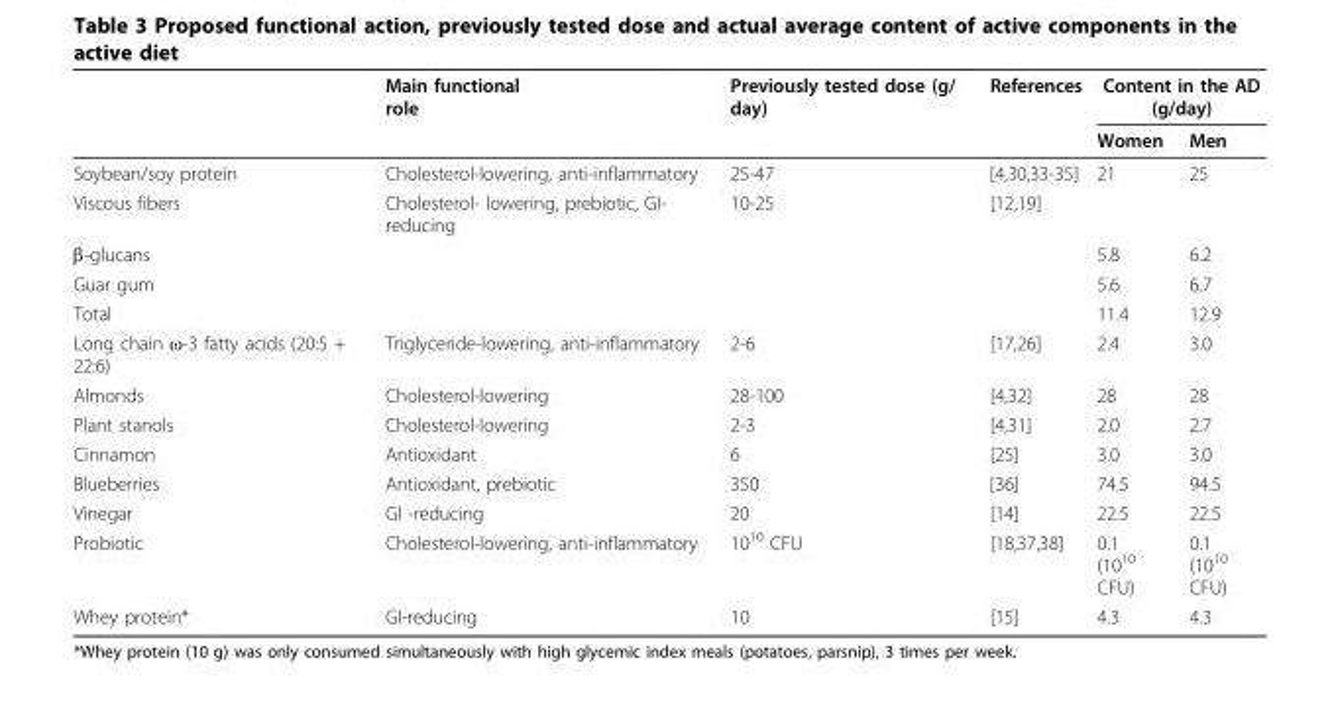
<table><thead><tr><td rowspan="2"></td><td rowspan="2">Main functional role</td><td rowspan="2">Previously tested dose (g/ day)</td><td rowspan="2">References</td><td colspan="2">Content in the AD (g/day)</td></tr><tr><td>Women</td><td>Men</td></tr></thead><tbody><tr><td>Soybean/soy protein</td><td>Cholesterol-lowering, anti-inflammatory</td><td>25-47</td><td>[4,30,33-35]</td><td>21</td><td>25</td></tr><tr><td>Viscous fibers</td><td>Cholesterol- lowering, prebiotic, GI- reducing</td><td>10-25</td><td>[12,19]</td><td></td><td></td></tr><tr><td>β-glucans</td><td></td><td></td><td></td><td>5.8</td><td>6.2</td></tr><tr><td>Guar gum</td><td></td><td></td><td></td><td>5.6</td><td>6.7</td></tr><tr><td>Total</td><td></td><td></td><td></td><td>11.4</td><td>12.9</td></tr><tr><td>Long chain ω-3 fatty acids (20:5 + 22:6)</td><td>Triglyceride-lowering, anti-inflammatory</td><td>2-6</td><td>[17,26]</td><td>2.4</td><td>3.0</td></tr><tr><td>Almonds</td><td>Cholesterol-lowering</td><td>28-100</td><td>[4,32]</td><td>28</td><td>28</td></tr><tr><td>Plant stanols</td><td>Cholesterol-lowering</td><td>2-3</td><td>[4,31]</td><td>2.0</td><td>2.7</td></tr><tr><td>Cinnamon</td><td>Antioxidant</td><td>6</td><td>[25]</td><td>3.0</td><td>3.0</td></tr><tr><td>Blueberries</td><td>Antioxidant, prebiotic</td><td>350</td><td>[36]</td><td>74.5</td><td>94.5</td></tr><tr><td>Vinegar</td><td>GI -reducing</td><td>20</td><td>[14]</td><td>22.5</td><td>22.5</td></tr><tr><td>Probiotic</td><td>Cholesterol-lowering, anti-inflammatory</td><td>10<sup>10</sup> CFU</td><td>[18,37,38]</td><td>0.1 (10<sup>10</sup> CFU)</td><td>0.1 (10<sup>10</sup> CFU)</td></tr><tr><td>Whey protein*</td><td>GI-reducing</td><td>10</td><td>[15]</td><td>4.3</td><td>4.3</td></tr></tbody></table>